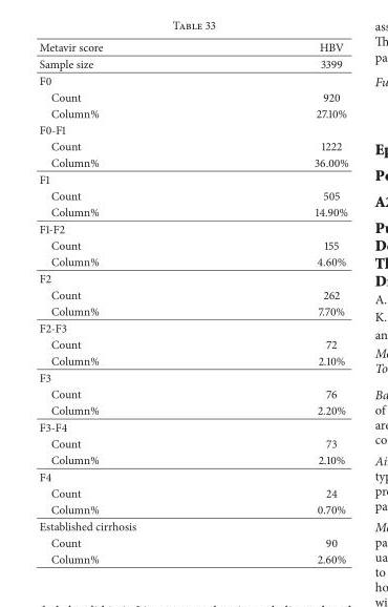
<table><thead><tr><td>Metavir score</td><td>HBV</td></tr></thead><tbody><tr><td>Sample size</td><td>3399</td></tr><tr><td colspan="2">F0</td></tr><tr><td>Count</td><td>920</td></tr><tr><td>Column%</td><td>27.10%</td></tr><tr><td colspan="2">F0-F1</td></tr><tr><td>Count</td><td>1222</td></tr><tr><td>Column%</td><td>36.00%</td></tr><tr><td colspan="2">F1</td></tr><tr><td>Count</td><td>505</td></tr><tr><td>Column%</td><td>14.90%</td></tr><tr><td colspan="2">F1-F2</td></tr><tr><td>Count</td><td>155</td></tr><tr><td>Column%</td><td>4.60%</td></tr><tr><td colspan="2">F2</td></tr><tr><td>Count</td><td>262</td></tr><tr><td>Column%</td><td>7.70%</td></tr><tr><td colspan="2">F2-F3</td></tr><tr><td>Count</td><td>72</td></tr><tr><td>Column%</td><td>2.10%</td></tr><tr><td colspan="2">F3</td></tr><tr><td>Count</td><td>76</td></tr><tr><td>Column%</td><td>2.20%</td></tr><tr><td colspan="2">F3-F4</td></tr><tr><td>Count</td><td>73</td></tr><tr><td>Column%</td><td>2.10%</td></tr><tr><td colspan="2">F4</td></tr><tr><td>Count</td><td>24</td></tr><tr><td>Column%</td><td>0.70%</td></tr><tr><td colspan="2">Established cirrhosis</td></tr><tr><td>Count</td><td>90</td></tr><tr><td>Column%</td><td>2.60%</td></tr></tbody></table>